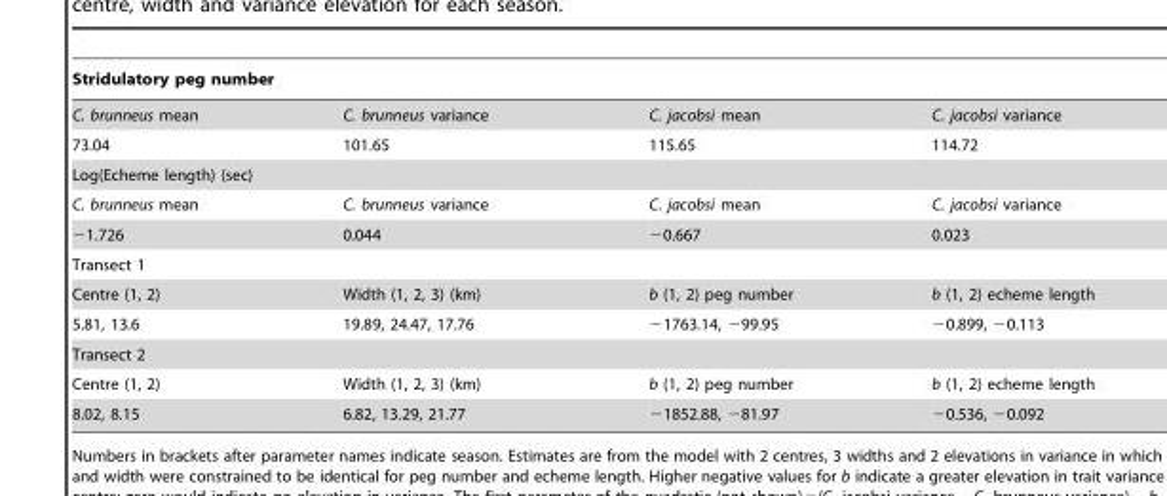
<table><thead><tr><td colspan="4">Stridulatory peg number</td></tr><tr><td>C. brunneus mean</td><td>C. brunneus variance</td><td>C. jacobsi mean</td><td>C. jacobsi variance</td></tr></thead><tbody><tr><td>73.04</td><td>101.65</td><td>115.65</td><td>114.72</td></tr><tr><td colspan="4">Log(Echeme length) (sec)</td></tr><tr><td>C. brunneus mean</td><td>C. brunneus variance</td><td>C. jacobsi mean</td><td>C. jacobsi variance</td></tr><tr><td>−1.726</td><td>0.044</td><td>−0.667</td><td>0.023</td></tr><tr><td colspan="4">Transect 1</td></tr><tr><td>Centre (1, 2)</td><td>Width (1, 2, 3) (km)</td><td>b (1, 2) peg number</td><td>b (1, 2) echeme length</td></tr><tr><td>5.81, 13.6</td><td>19.89, 24.47, 17.76</td><td>−1763.14, −99.95</td><td>−0.899, −0.113</td></tr><tr><td colspan="4">Transect 2</td></tr><tr><td>Centre (1, 2)</td><td>Width (1, 2, 3) (km)</td><td>b (1, 2) peg number</td><td>b (1, 2) echeme length</td></tr><tr><td>8.02, 8.15</td><td>6.82, 13.29, 21.77</td><td>−1852.88, −81.97</td><td>−0.536, −0.092</td></tr></tbody></table>